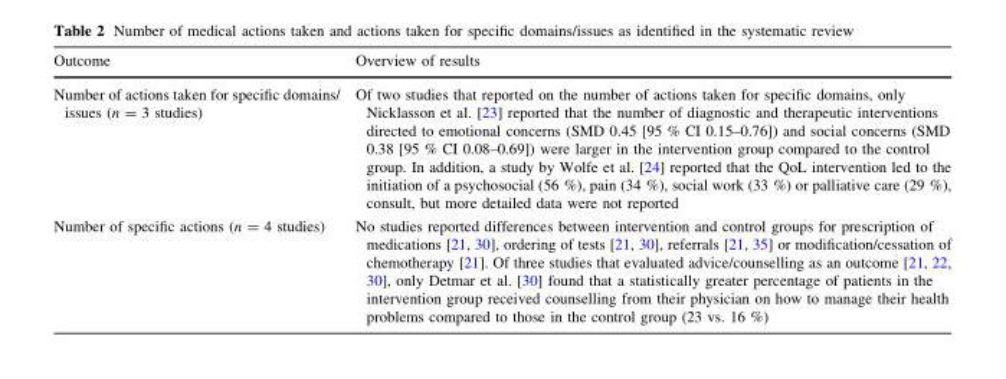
<table><thead><tr><td>Outcome</td><td>Overview of results</td></tr></thead><tbody><tr><td>Number of actions taken for specific domains/ issues (n = 3 studies)</td><td>Of two studies that reported on the number of actions taken for specific domains, only Nicklasson et al. [23] reported that the number of diagnostic and therapeutic interventions directed to emotional concerns (SMD 0.45 [95 % CI 0.15–0.76]) and social concerns (SMD 0.38 [95 % CI 0.08–0.69]) were larger in the intervention group compared to the control group. In addition, a study by Wolfe et al. [24] reported that the QoL intervention led to the initiation of a psychosocial (56 %), pain (34 %), social work (33 %) or palliative care (29 %), consult, but more detailed data were not reported</td></tr><tr><td>Number of specific actions (n = 4 studies)</td><td>No studies reported differences between intervention and control groups for prescription of medications [21, 30], ordering of tests [21, 30], referrals [21, 35] or modification/cessation of chemotherapy [21]. Of three studies that evaluated advice/counselling as an outcome [21, 22, 30], only Detmar et al. [30] found that a statistically greater percentage of patients in the intervention group received counselling from their physician on how to manage their health problems compared to those in the control group (23 vs. 16 %)</td></tr></tbody></table>